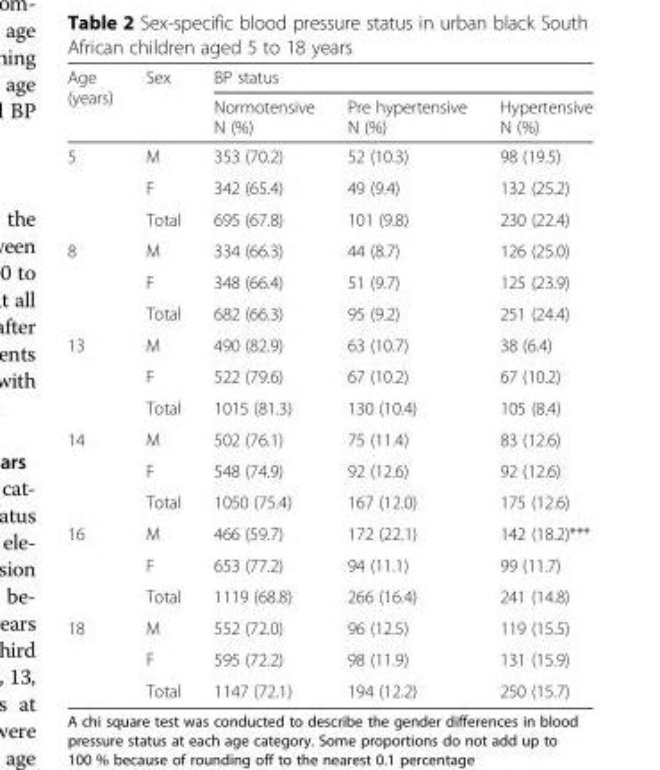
<table><thead><tr><td rowspan="2">Age (years)</td><td rowspan="2">Sex</td><td colspan="3">BP status</td></tr><tr><td>Normotensive N (%)</td><td>Pre hypertensive N (%)</td><td>Hypertensive N (%)</td></tr></thead><tbody><tr><td rowspan="3">5</td><td>M</td><td>353 (70.2)</td><td>52 (10.3)</td><td>98 (19.5)</td></tr><tr><td>F</td><td>342 (65.4)</td><td>49 (9.4)</td><td>132 (25.2)</td></tr><tr><td>Total</td><td>695 (67.8)</td><td>101 (9.8)</td><td>230 (22.4)</td></tr><tr><td rowspan="3">8</td><td>M</td><td>334 (66.3)</td><td>44 (8.7)</td><td>126 (25.0)</td></tr><tr><td>F</td><td>348 (66.4)</td><td>51 (9.7)</td><td>125 (23.9)</td></tr><tr><td>Total</td><td>682 (66.3)</td><td>95 (9.2)</td><td>251 (24.4)</td></tr><tr><td rowspan="3">13</td><td>M</td><td>490 (82.9)</td><td>63 (10.7)</td><td>38 (6.4)</td></tr><tr><td>F</td><td>522 (79.6)</td><td>67 (10.2)</td><td>67 (10.2)</td></tr><tr><td>Total</td><td>1015 (81.3)</td><td>130 (10.4)</td><td>105 (8.4)</td></tr><tr><td rowspan="3">14</td><td>M</td><td>502 (76.1)</td><td>75 (11.4)</td><td>83 (12.6)</td></tr><tr><td>F</td><td>548 (74.9)</td><td>92 (12.6)</td><td>92 (12.6)</td></tr><tr><td>Total</td><td>1050 (75.4)</td><td>167 (12.0)</td><td>175 (12.6)</td></tr><tr><td rowspan="3">16</td><td>M</td><td>466 (59.7)</td><td>172 (22.1)</td><td>142 (18.2)***</td></tr><tr><td>F</td><td>653 (77.2)</td><td>94 (11.1)</td><td>99 (11.7)</td></tr><tr><td>Total</td><td>1119 (68.8)</td><td>266 (16.4)</td><td>241 (14.8)</td></tr><tr><td rowspan="3">18</td><td>M</td><td>552 (72.0)</td><td>96 (12.5)</td><td>119 (15.5)</td></tr><tr><td>F</td><td>595 (72.2)</td><td>98 (11.9)</td><td>131 (15.9)</td></tr><tr><td>Total</td><td>1147 (72.1)</td><td>194 (12.2)</td><td>250 (15.7)</td></tr></tbody></table>